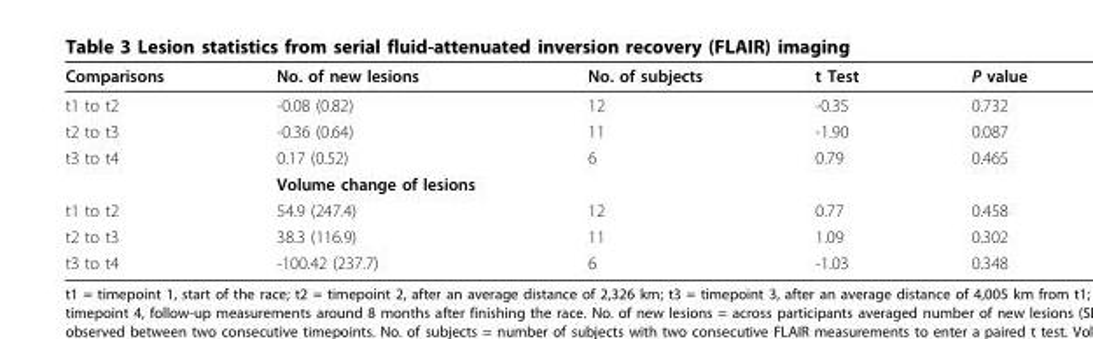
<table><thead><tr><td>Comparisons</td><td>No. of new lesions</td><td>No. of subjects</td><td>t Test</td><td>P value</td></tr></thead><tbody><tr><td>t1 to t2</td><td>-0.08 (0.82)</td><td>12</td><td>-0.35</td><td>0.732</td></tr><tr><td>t2 to t3</td><td>-0.36 (0.64)</td><td>11</td><td>-1.90</td><td>0.087</td></tr><tr><td rowspan="2">t3 to t4</td><td>0.17 (0.52)</td><td>6</td><td>0.79</td><td>0.465</td></tr><tr><td>Volume change of lesions</td><td></td><td></td><td></td></tr><tr><td>t1 to t2</td><td>54.9 (247.4)</td><td>12</td><td>0.77</td><td>0.458</td></tr><tr><td>t2 to t3</td><td>38.3 (116.9)</td><td>11</td><td>1.09</td><td>0.302</td></tr><tr><td>t3 to t4</td><td>-100.42 (237.7)</td><td>6</td><td>-1.03</td><td>0.348</td></tr></tbody></table>